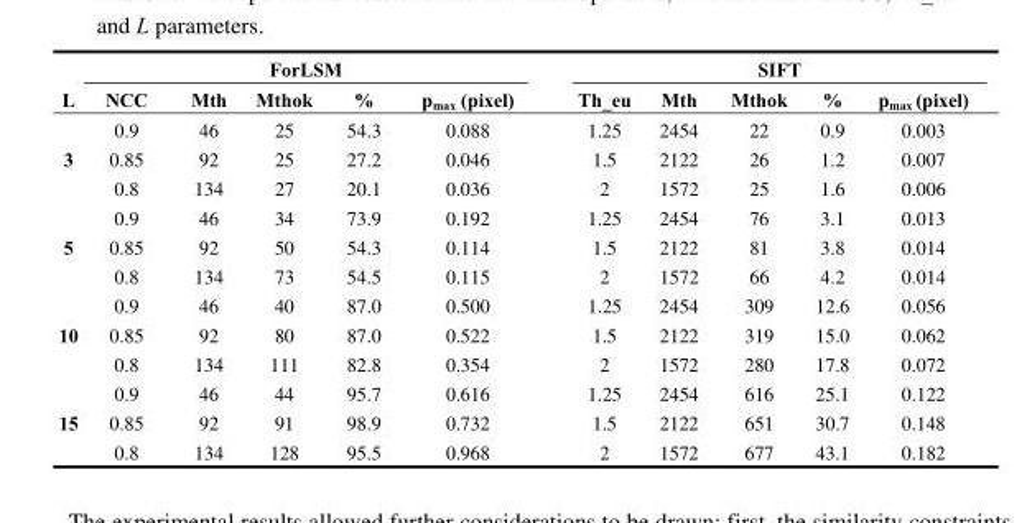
<table><thead><tr><td rowspan="2">L</td><td colspan="5">ForLSM</td><td colspan="5">SIFT</td></tr><tr><td>NCC</td><td>Mth</td><td>Mthok</td><td>%</td><td>p<sub>max</sub> (pixel)</td><td>Th_eu</td><td>Mth</td><td>Mthok</td><td>%</td><td>p<sub>max</sub> (pixel)</td></tr></thead><tbody><tr><td rowspan="3">3</td><td>0.9</td><td>46</td><td>25</td><td>54.3</td><td>0.088</td><td>1.25</td><td>2454</td><td>22</td><td>0.9</td><td>0.003</td></tr><tr><td>0.85</td><td>92</td><td>25</td><td>27.2</td><td>0.046</td><td>1.5</td><td>2122</td><td>26</td><td>1.2</td><td>0.007</td></tr><tr><td>0.8</td><td>134</td><td>27</td><td>20.1</td><td>0.036</td><td>2</td><td>1572</td><td>25</td><td>1.6</td><td>0.006</td></tr><tr><td rowspan="3">5</td><td>0.9</td><td>46</td><td>34</td><td>73.9</td><td>0.192</td><td>1.25</td><td>2454</td><td>76</td><td>3.1</td><td>0.013</td></tr><tr><td>0.85</td><td>92</td><td>50</td><td>54.3</td><td>0.114</td><td>1.5</td><td>2122</td><td>81</td><td>3.8</td><td>0.014</td></tr><tr><td>0.8</td><td>134</td><td>73</td><td>54.5</td><td>0.115</td><td>2</td><td>1572</td><td>66</td><td>4.2</td><td>0.014</td></tr><tr><td rowspan="3">10</td><td>0.9</td><td>46</td><td>40</td><td>87.0</td><td>0.500</td><td>1.25</td><td>2454</td><td>309</td><td>12.6</td><td>0.056</td></tr><tr><td>0.85</td><td>92</td><td>80</td><td>87.0</td><td>0.522</td><td>1.5</td><td>2122</td><td>319</td><td>15.0</td><td>0.062</td></tr><tr><td>0.8</td><td>134</td><td>111</td><td>82.8</td><td>0.354</td><td>2</td><td>1572</td><td>280</td><td>17.8</td><td>0.072</td></tr><tr><td rowspan="3">15</td><td>0.9</td><td>46</td><td>44</td><td>95.7</td><td>0.616</td><td>1.25</td><td>2454</td><td>616</td><td>25.1</td><td>0.122</td></tr><tr><td>0.85</td><td>92</td><td>91</td><td>98.9</td><td>0.732</td><td>1.5</td><td>2122</td><td>651</td><td>30.7</td><td>0.148</td></tr><tr><td>0.8</td><td>134</td><td>128</td><td>95.5</td><td>0.968</td><td>2</td><td>1572</td><td>677</td><td>43.1</td><td>0.182</td></tr></tbody></table>